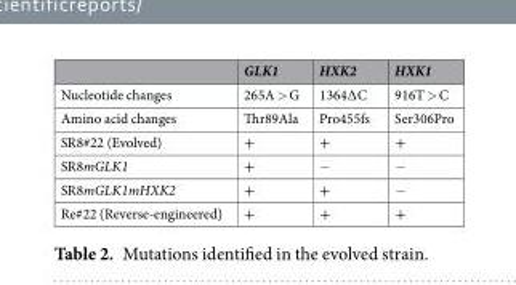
<table><thead><tr><td></td><td>GLK1</td><td>HXK2</td><td>HXK1</td></tr></thead><tbody><tr><td>Nucleotide changes</td><td>265A &gt; G</td><td>1364∆C</td><td>916T &gt; C</td></tr><tr><td>Amino acid changes</td><td>Thr89Ala</td><td>Pro455fs</td><td>Ser306Pro</td></tr><tr><td>SR8#22 (Evolved)</td><td>+</td><td>+</td><td>+</td></tr><tr><td>SR8mGLK1</td><td>+</td><td>−</td><td>−</td></tr><tr><td>SR8mGLK1mHXK2</td><td>+</td><td>+</td><td>−</td></tr><tr><td>Re#22 (Reverse-engineered)</td><td>+</td><td>+</td><td>+</td></tr></tbody></table>